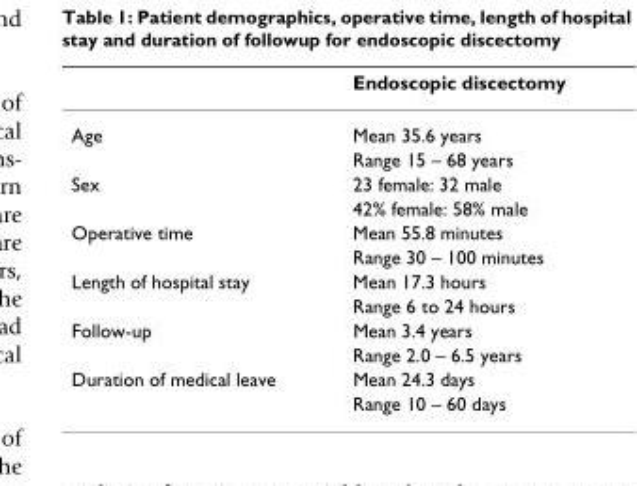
<table><thead><tr><td></td><td>Endoscopic discectomy</td></tr></thead><tbody><tr><td rowspan="2">Age</td><td>Mean 35.6 years</td></tr><tr><td>Range 15 – 68 years</td></tr><tr><td rowspan="2">Sex</td><td>23 female: 32 male</td></tr><tr><td>42% female: 58% male</td></tr><tr><td rowspan="2">Operative time</td><td>Mean 55.8 minutes</td></tr><tr><td>Range 30 – 100 minutes</td></tr><tr><td rowspan="2">Length of hospital stay</td><td>Mean 17.3 hours</td></tr><tr><td>Range 6 to 24 hours</td></tr><tr><td rowspan="2">Follow-up</td><td>Mean 3.4 years</td></tr><tr><td>Range 2.0 – 6.5 years</td></tr><tr><td rowspan="2">Duration of medical leave</td><td>Mean 24.3 days</td></tr><tr><td>Range 10 – 60 days</td></tr></tbody></table>